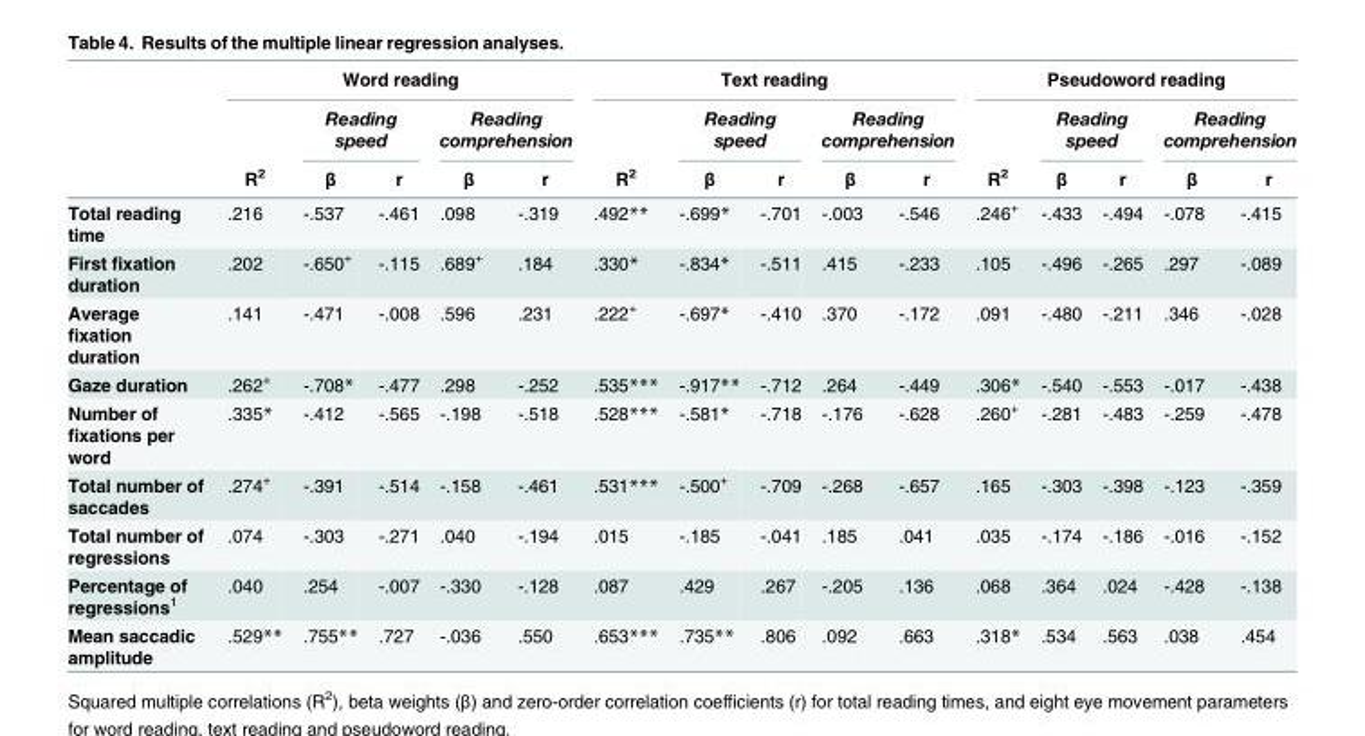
<table><thead><tr><td rowspan="3"></td><td colspan="5">Word reading</td><td colspan="5">Text reading</td><td colspan="5">Pseudoword reading</td></tr><tr><td rowspan="2">R<sup>2</sup></td><td colspan="2">Reading speed</td><td colspan="2">Reading comprehension</td><td rowspan="2">R<sup>2</sup></td><td colspan="2">Reading speed</td><td colspan="2">Reading comprehension</td><td rowspan="2">R<sup>2</sup></td><td colspan="2">Reading speed</td><td colspan="2">Reading comprehension</td></tr><tr><td>β</td><td>r</td><td>β</td><td>r</td><td>β</td><td>r</td><td>β</td><td>r</td><td>β</td><td>r</td><td>β</td><td>r</td></tr></thead><tbody><tr><td>Total reading time</td><td>.216</td><td>-.537</td><td>-.461</td><td>.098</td><td>-.319</td><td>.492**</td><td>-.699*</td><td>-.701</td><td>-.003</td><td>-.546</td><td>.246<sup>+</sup></td><td>-.433</td><td>-.494</td><td>-.078</td><td>-.415</td></tr><tr><td>First fixation duration</td><td>.202</td><td>-.650<sup>+</sup></td><td>-.115</td><td>.689<sup>+</sup></td><td>.184</td><td>.330*</td><td>-.834*</td><td>-.511</td><td>.415</td><td>-.233</td><td>.105</td><td>-.496</td><td>-.265</td><td>.297</td><td>-.089</td></tr><tr><td>Average fixation duration</td><td>.141</td><td>-.471</td><td>-.008</td><td>.596</td><td>.231</td><td>.222<sup>+</sup></td><td>-.697*</td><td>-.410</td><td>.370</td><td>-.172</td><td>.091</td><td>-.480</td><td>-.211</td><td>.346</td><td>-.028</td></tr><tr><td>Gaze duration</td><td>.262<sup>+</sup></td><td>-.708*</td><td>-.477</td><td>.298</td><td>-.252</td><td>.535***</td><td>-.917**</td><td>-.712</td><td>.264</td><td>-.449</td><td>.306*</td><td>-.540</td><td>-.553</td><td>-.017</td><td>-.438</td></tr><tr><td>Number of fixations per word</td><td>.335*</td><td>-.412</td><td>-.565</td><td>-.198</td><td>-.518</td><td>.528***</td><td>-.581*</td><td>-.718</td><td>-.176</td><td>-.628</td><td>.260<sup>+</sup></td><td>-.281</td><td>-.483</td><td>-.259</td><td>-.478</td></tr><tr><td>Total number of saccades</td><td>.274<sup>+</sup></td><td>-.391</td><td>-.514</td><td>-.158</td><td>-.461</td><td>.531***</td><td>-.500<sup>+</sup></td><td>-.709</td><td>-.268</td><td>-.657</td><td>.165</td><td>-.303</td><td>-.398</td><td>-.123</td><td>-.359</td></tr><tr><td>Total number of regressions</td><td>.074</td><td>-.303</td><td>-.271</td><td>.040</td><td>-.194</td><td>.015</td><td>-.185</td><td>-.041</td><td>.185</td><td>.041</td><td>.035</td><td>-.174</td><td>-.186</td><td>-.016</td><td>-.152</td></tr><tr><td>Percentage of regressions<sup>1</sup></td><td>.040</td><td>.254</td><td>-.007</td><td>-.330</td><td>-.128</td><td>.087</td><td>.429</td><td>.267</td><td>-.205</td><td>.136</td><td>.068</td><td>.364</td><td>.024</td><td>-.428</td><td>-.138</td></tr><tr><td>Mean saccadic amplitude</td><td>.529**</td><td>.755**</td><td>.727</td><td>-.036</td><td>.550</td><td>.653***</td><td>.735**</td><td>.806</td><td>.092</td><td>.663</td><td>.318*</td><td>.534</td><td>.563</td><td>.038</td><td>.454</td></tr></tbody></table>